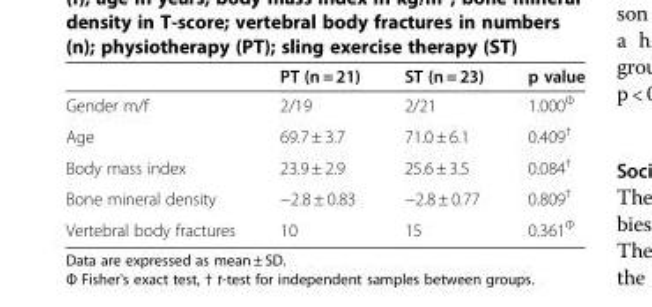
<table><thead><tr><td></td><td>PT (n = 21)</td><td>ST (n = 23)</td><td>p value</td></tr></thead><tbody><tr><td>Gender m/f</td><td>2/19</td><td>2/21</td><td>1.000<sup>Φ</sup></td></tr><tr><td>Age</td><td>69.7 ± 3.7</td><td>71.0 ± 6.1</td><td>0.409<sup>†</sup></td></tr><tr><td>Body mass index</td><td>23.9 ± 2.9</td><td>25.6 ± 3.5</td><td>0.084<sup>†</sup></td></tr><tr><td>Bone mineral density</td><td>−2.8 ± 0.83</td><td>−2.8 ± 0.77</td><td>0.809<sup>†</sup></td></tr><tr><td>Vertebral body fractures</td><td>10</td><td>15</td><td>0.361<sup>Φ</sup></td></tr></tbody></table>